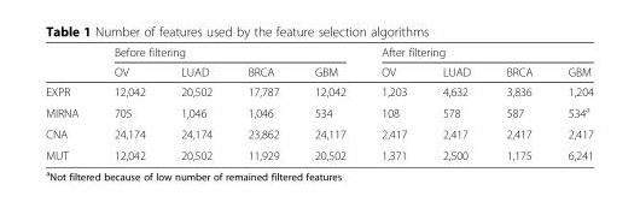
<table><thead><tr><td rowspan="2"></td><td colspan="4">Before filtering</td><td colspan="4">After filtering</td></tr><tr><td>OV</td><td>LUAD</td><td>BRCA</td><td>GBM</td><td>OV</td><td>LUAD</td><td>BRCA</td><td>GBM</td></tr></thead><tbody><tr><td>EXPR</td><td>12,042</td><td>20,502</td><td>17,787</td><td>12,042</td><td>1,203</td><td>4,632</td><td>3,836</td><td>1,204</td></tr><tr><td>MIRNA</td><td>705</td><td>1,046</td><td>1,046</td><td>534</td><td>108</td><td>578</td><td>587</td><td>534<sup>a</sup></td></tr><tr><td>CNA</td><td>24,174</td><td>24,174</td><td>23,862</td><td>24,117</td><td>2,417</td><td>2,417</td><td>2,417</td><td>2,417</td></tr><tr><td>MUT</td><td>12,042</td><td>20,502</td><td>11,929</td><td>20,502</td><td>1,371</td><td>2,500</td><td>1,175</td><td>6,241</td></tr></tbody></table>